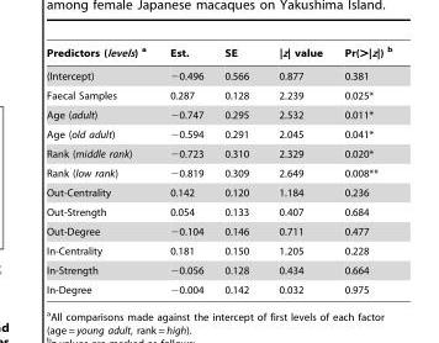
<table><thead><tr><td>Predictors (levels) a</td><td>Est.</td><td>SE</td><td>|z| value</td><td>Pr(&gt;|z|) b</td></tr></thead><tbody><tr><td>(Intercept)</td><td>−0.496</td><td>0.566</td><td>0.877</td><td>0.381</td></tr><tr><td>Faecal Samples</td><td>0.287</td><td>0.128</td><td>2.239</td><td>0.025*</td></tr><tr><td>Age (adult)</td><td>−0.747</td><td>0.295</td><td>2.532</td><td>0.011*</td></tr><tr><td>Age (old adult)</td><td>−0.594</td><td>0.291</td><td>2.045</td><td>0.041*</td></tr><tr><td>Rank (middle rank)</td><td>−0.723</td><td>0.310</td><td>2.329</td><td>0.020*</td></tr><tr><td>Rank (low rank)</td><td>−0.819</td><td>0.309</td><td>2.649</td><td>0.008**</td></tr><tr><td>Out-Centrality</td><td>0.142</td><td>0.120</td><td>1.184</td><td>0.236</td></tr><tr><td>Out-Strength</td><td>0.054</td><td>0.133</td><td>0.407</td><td>0.684</td></tr><tr><td>Out-Degree</td><td>−0.104</td><td>0.146</td><td>0.711</td><td>0.477</td></tr><tr><td>In-Centrality</td><td>0.181</td><td>0.150</td><td>1.205</td><td>0.228</td></tr><tr><td>In-Strength</td><td>−0.056</td><td>0.128</td><td>0.434</td><td>0.664</td></tr><tr><td>In-Degree</td><td>−0.004</td><td>0.142</td><td>0.032</td><td>0.975</td></tr></tbody></table>